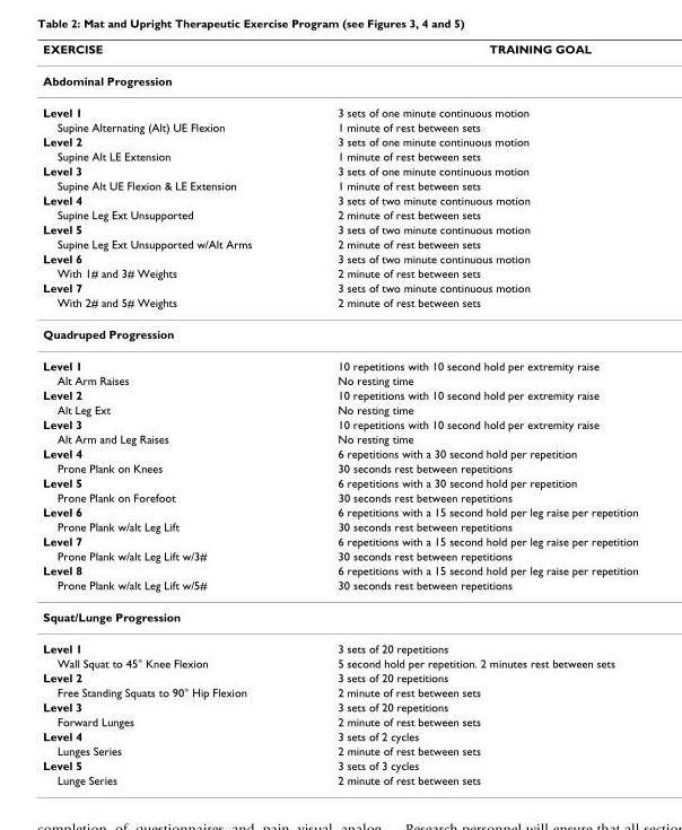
<table><thead><tr><td>EXERCISE</td><td>TRAINING GOAL</td></tr></thead><tbody><tr><td colspan="2">Abdominal Progression</td></tr><tr><td>Level 1</td><td>3 sets of one minute continuous motion</td></tr><tr><td>Supine Alternating (Alt) UE Flexion</td><td>1 minute of rest between sets</td></tr><tr><td>Level 2</td><td>3 sets of one minute continuous motion</td></tr><tr><td>Supine Alt LE Extension</td><td>1 minute of rest between sets</td></tr><tr><td>Level 3</td><td>3 sets of one minute continuous motion</td></tr><tr><td>Supine Alt UE Flexion &amp; LE Extension</td><td>1 minute of rest between sets</td></tr><tr><td>Level 4</td><td>3 sets of two minute continuous motion</td></tr><tr><td>Supine Leg Ext Unsupported</td><td>2 minute of rest between sets</td></tr><tr><td>Level 5</td><td>3 sets of two minute continuous motion</td></tr><tr><td>Supine Leg Ext Unsupported w/Alt Arms</td><td>2 minute of rest between sets</td></tr><tr><td>Level 6</td><td>3 sets of two minute continuous motion</td></tr><tr><td>With 1# and 3# Weights</td><td>2 minute of rest between sets</td></tr><tr><td>Level 7</td><td>3 sets of two minute continuous motion</td></tr><tr><td>With 2# and 5# Weights</td><td>2 minute of rest between sets</td></tr><tr><td colspan="2">Quadruped Progression</td></tr><tr><td>Level 1</td><td>10 repetitions with 10 second hold per extremity raise</td></tr><tr><td>Alt Arm Raises</td><td>No resting time</td></tr><tr><td>Level 2</td><td>10 repetitions with 10 second hold per extremity raise</td></tr><tr><td>Alt Leg Ext</td><td>No resting time</td></tr><tr><td>Level 3</td><td>10 repetitions with 10 second hold per extremity raise</td></tr><tr><td>Alt Arm and Leg Raises</td><td>No resting time</td></tr><tr><td>Level 4</td><td>6 repetitions with a 30 second hold per repetition</td></tr><tr><td>Prone Plank on Knees</td><td>30 seconds rest between repetitions</td></tr><tr><td>Level 5</td><td>6 repetitions with a 30 second hold per repetition</td></tr><tr><td>Prone Plank on Forefoot</td><td>30 seconds rest between repetitions</td></tr><tr><td>Level 6</td><td>6 repetitions with a 15 second hold per leg raise per repetition</td></tr><tr><td>Prone Plank w/alt Leg Lift</td><td>30 seconds rest between repetitions</td></tr><tr><td>Level 7</td><td>6 repetitions with a 15 second hold per leg raise per repetition</td></tr><tr><td>Prone Plank w/alt Leg Lift w/3#</td><td>30 seconds rest between repetitions</td></tr><tr><td>Level 8</td><td>6 repetitions with a 15 second hold per leg raise per repetition</td></tr><tr><td>Prone Plank w/alt Leg Lift w/5#</td><td>30 seconds rest between repetitions</td></tr><tr><td colspan="2">Squat/Lunge Progression</td></tr><tr><td>Level 1</td><td>3 sets of 20 repetitions</td></tr><tr><td>Wall Squat to 45° Knee Flexion</td><td>5 second hold per repetition. 2 minutes rest between sets</td></tr><tr><td>Level 2</td><td>3 sets of 20 repetitions</td></tr><tr><td>Free Standing Squats to 90° Hip Flexion</td><td>2 minute of rest between sets</td></tr><tr><td>Level 3</td><td>3 sets of 20 repetitions</td></tr><tr><td>Forward Lunges</td><td>2 minute of rest between sets</td></tr><tr><td>Level 4</td><td>3 sets of 2 cycles</td></tr><tr><td>Lunges Series</td><td>2 minute of rest between sets</td></tr><tr><td>Level 5</td><td>3 sets of 3 cycles</td></tr><tr><td>Lunge Series</td><td>2 minute of rest between sets</td></tr></tbody></table>